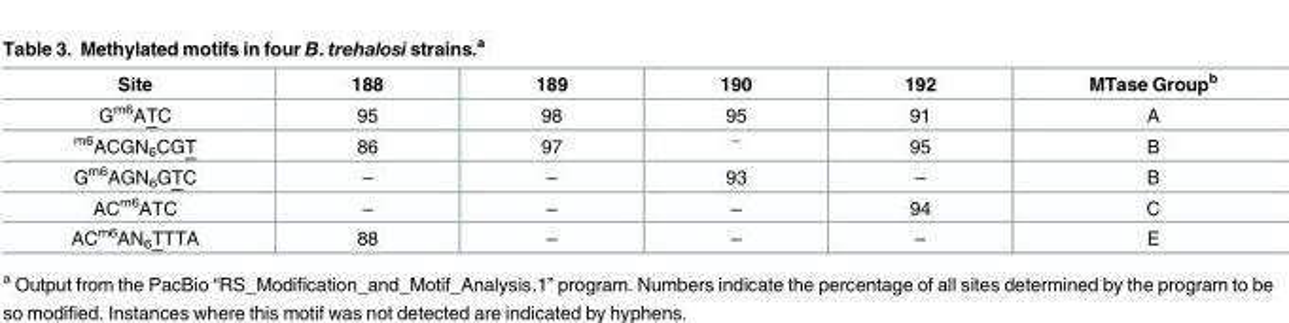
<table><thead><tr><td>Site</td><td>188</td><td>189</td><td>190</td><td>192</td><td>MTase Group<sup>b</sup></td></tr></thead><tbody><tr><td>G<sup>m6</sup>ATC</td><td>95</td><td>98</td><td>95</td><td>91</td><td>A</td></tr><tr><td><sup>m6</sup>ACGN<sub>6</sub>CGT</td><td>86</td><td>97</td><td><sup>–</sup></td><td>95</td><td>B</td></tr><tr><td>G<sup>m6</sup>AGN<sub>6</sub>GTC</td><td>–</td><td>–</td><td>93</td><td>–</td><td>B</td></tr><tr><td>AC<sup>m6</sup>ATC</td><td>–</td><td>–</td><td>–</td><td>94</td><td>C</td></tr><tr><td>AC<sup>m6</sup>AN<sub>6</sub>TTTA</td><td>88</td><td>–</td><td>–</td><td>–</td><td>E</td></tr></tbody></table>